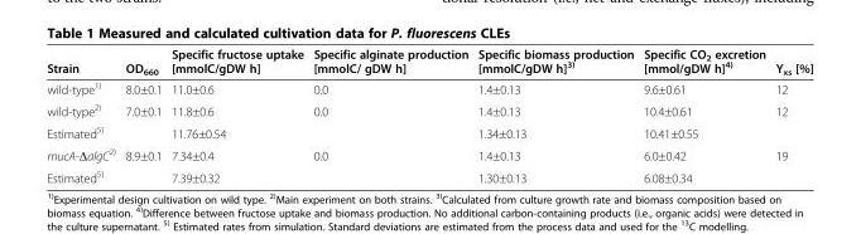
<table><thead><tr><td>Strain</td><td>OD<sub>660</sub></td><td>Specific fructose uptake [mmolC/gDW h]</td><td>Specific alginate production [mmolC/ gDW h]</td><td>Specific biomass production [mmolC/gDW h]<sup>3)</sup></td><td>Specific CO<sub>2</sub> excretion [mmol/gDW h]<sup>4)</sup></td><td>Y<sub>xs</sub> [%]</td></tr></thead><tbody><tr><td>wild-type<sup>1)</sup></td><td>8.0±0.1</td><td>11.0±0.6</td><td>0.0</td><td>1.4±0.13</td><td>9.6±0.61</td><td>12</td></tr><tr><td>wild-type<sup>2)</sup></td><td>7.0±0.1</td><td>11.8±0.6</td><td>0.0</td><td>1.4±0.13</td><td>10.4±0.61</td><td>12</td></tr><tr><td>Estimated<sup>5)</sup></td><td></td><td>11.76±0.54</td><td></td><td>1.34±0.13</td><td>10.41±0.55</td><td></td></tr><tr><td>mucA-ΔalgC<sup>2)</sup></td><td>8.9±0.1</td><td>7.34±0.4</td><td>0.0</td><td>1.4±0.13</td><td>6.0±0.42</td><td>19</td></tr><tr><td>Estimated<sup>5)</sup></td><td></td><td>7.39±0.32</td><td></td><td>1.30±0.13</td><td>6.08±0.34</td><td></td></tr></tbody></table>